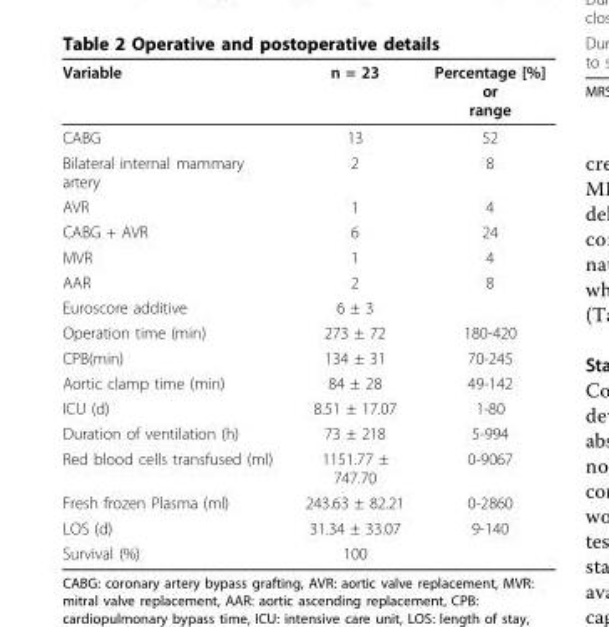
<table><thead><tr><td>Variable</td><td>n = 23</td><td>Percentage [%] or range</td></tr></thead><tbody><tr><td>CABG</td><td>13</td><td>52</td></tr><tr><td>Bilateral internal mammary artery</td><td>2</td><td>8</td></tr><tr><td>AVR</td><td>1</td><td>4</td></tr><tr><td>CABG + AVR</td><td>6</td><td>24</td></tr><tr><td>MVR</td><td>1</td><td>4</td></tr><tr><td>AAR</td><td>2</td><td>8</td></tr><tr><td>Euroscore additive</td><td>6 ± 3</td><td></td></tr><tr><td>Operation time (min)</td><td>273 ± 72</td><td>180-420</td></tr><tr><td>CPB(min)</td><td>134 ± 31</td><td>70-245</td></tr><tr><td>Aortic clamp time (min)</td><td>84 ± 28</td><td>49-142</td></tr><tr><td>ICU (d)</td><td>8.51 ± 17.07</td><td>1-80</td></tr><tr><td>Duration of ventilation (h)</td><td>73 ± 218</td><td>5-994</td></tr><tr><td>Red blood cells transfused (ml)</td><td>1151.77 ± 747.70</td><td>0-9067</td></tr><tr><td>Fresh frozen Plasma (ml)</td><td>243.63 ± 82.21</td><td>0-2860</td></tr><tr><td>LOS (d)</td><td>31.34 ± 33.07</td><td>9-140</td></tr><tr><td>Survival (%)</td><td>100</td><td></td></tr></tbody></table>